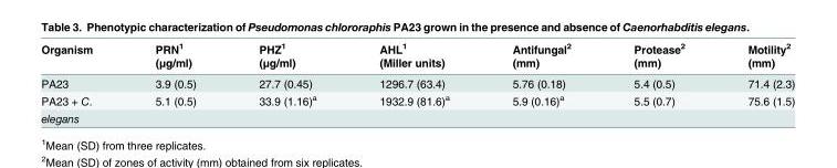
<table><thead><tr><td rowspan="2">Organism</td><td rowspan="2">PRN<sup>1</sup> (μg/ml)</td><td rowspan="2">PHZ<sup>1</sup> (μg/ml)</td><td rowspan="2">AHL<sup>1</sup> (Miller units)</td><td rowspan="2">Antifungal<sup>2</sup> (mm)</td><td rowspan="2">Protease<sup>2</sup> (mm)</td><td rowspan="2">Motility<sup>2</sup> (mm)</td></tr><tr></tr></thead><tbody><tr><td>PA23</td><td>3.9 (0.5)</td><td>27.7 (0.45)</td><td>1296.7 (63.4)</td><td>5.76 (0.18)</td><td>5.4 (0.5)</td><td>71.4 (2.3)</td></tr><tr><td>PA23 + C.</td><td>5.1 (0.5)</td><td>33.9 (1.16)<sup>a</sup></td><td>1932.9 (81.6)<sup>a</sup></td><td>5.9 (0.16)<sup>a</sup></td><td>5.5 (0.7)</td><td>75.6 (1.5)</td></tr><tr><td>elegans</td><td></td><td></td><td></td><td></td><td></td><td></td></tr></tbody></table>